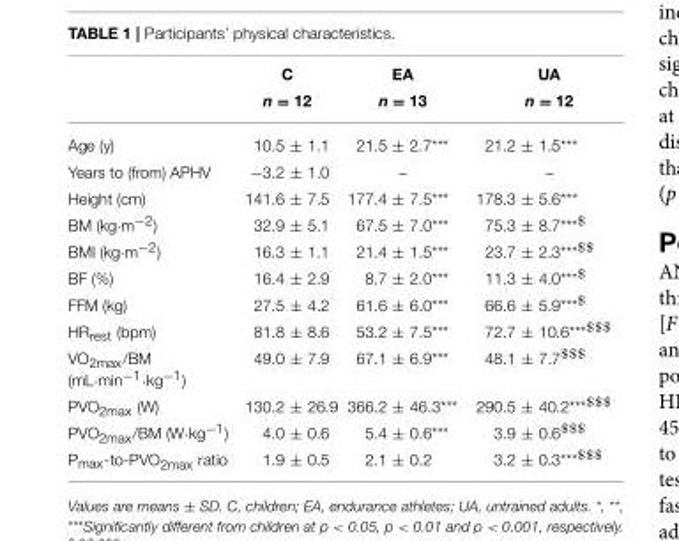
<table><thead><tr><td rowspan="2"></td><td rowspan="2">C n = 12</td><td rowspan="2">EA n = 13</td><td rowspan="2">UA n = 12</td></tr><tr></tr></thead><tbody><tr><td>Age (y)</td><td>10.5 ± 1.1</td><td>21.5 ± 2.7***</td><td>21.2 ± 1.5***</td></tr><tr><td>Years to (from) APHV</td><td>−3.2 ± 1.0</td><td>–</td><td>–</td></tr><tr><td>Height (cm)</td><td>141.6 ± 7.5</td><td>177.4 ± 7.5***</td><td>178.3 ± 5.6***</td></tr><tr><td>BM (kg·m<sup>−2</sup>)</td><td>32.9 ± 5.1</td><td>67.5 ± 7.0***</td><td>75.3 ± 8.7<sup>***$</sup></td></tr><tr><td>BMI (kg·m<sup>−2</sup>)</td><td>16.3 ± 1.1</td><td>21.4 ± 1.5***</td><td>23.7 ± 2.3<sup>***$$</sup></td></tr><tr><td>BF (%)</td><td>16.4 ± 2.9</td><td>8.7 ± 2.0***</td><td>11.3 ± 4.0<sup>***$</sup></td></tr><tr><td>FFM (kg)</td><td>27.5 ± 4.2</td><td>61.6 ± 6.0***</td><td>66.6 ± 5.9<sup>***$</sup></td></tr><tr><td>HR<sub>rest</sub> (bpm)</td><td>81.8 ± 8.6</td><td>53.2 ± 7.5***</td><td>72.7 ± 10.6<sup>***$$$</sup></td></tr><tr><td>VO<sub>2max</sub>/BM (mL·min<sup>−1</sup>·kg<sup>−1</sup>)</td><td>49.0 ± 7.9</td><td>67.1 ± 6.9***</td><td>48.1 ± 7.7<sup>$$$</sup></td></tr><tr><td>PVO<sub>2max</sub> (W)</td><td>130.2 ± 26.9</td><td>366.2 ± 46.3***</td><td>290.5 ± 40.2<sup>***$$$</sup></td></tr><tr><td>PVO<sub>2max</sub>/BM (W·kg<sup>−1</sup>)</td><td>4.0 ± 0.6</td><td>5.4 ± 0.6***</td><td>3.9 ± 0.6<sup>$$$</sup></td></tr><tr><td>P<sub>max</sub>-to-PVO<sub>2max</sub> ratio</td><td>1.9 ± 0.5</td><td>2.1 ± 0.2</td><td>3.2 ± 0.3<sup>***$$$</sup></td></tr></tbody></table>